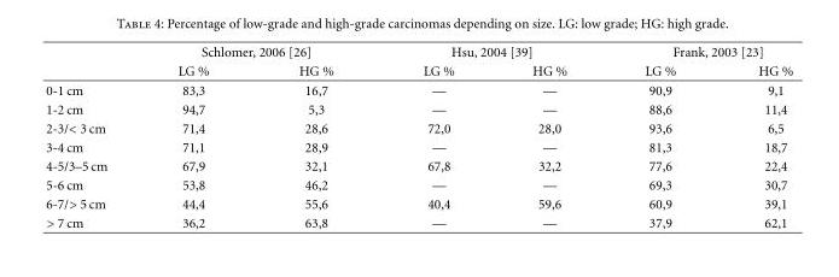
<table><thead><tr><td rowspan="2"></td><td colspan="2">Schlomer, 2006 [26]</td><td colspan="2">Hsu, 2004 [39]</td><td colspan="2">Frank, 2003 [23]</td></tr><tr><td>LG %</td><td>HG %</td><td>LG %</td><td>HG %</td><td>LG %</td><td>HG %</td></tr></thead><tbody><tr><td>0-1 cm</td><td>83,3</td><td>16,7</td><td>—</td><td>—</td><td>90,9</td><td>9,1</td></tr><tr><td>1-2 cm</td><td>94,7</td><td>5,3</td><td>—</td><td>—</td><td>88,6</td><td>11,4</td></tr><tr><td>2-3/&lt; 3 cm</td><td>71,4</td><td>28,6</td><td>72,0</td><td>28,0</td><td>93,6</td><td>6,5</td></tr><tr><td>3-4 cm</td><td>71,1</td><td>28,9</td><td>—</td><td>—</td><td>81,3</td><td>18,7</td></tr><tr><td>4-5/3–5 cm</td><td>67,9</td><td>32,1</td><td>67,8</td><td>32,2</td><td>77,6</td><td>22,4</td></tr><tr><td>5-6 cm</td><td>53,8</td><td>46,2</td><td>—</td><td>—</td><td>69,3</td><td>30,7</td></tr><tr><td>6-7/&gt; 5 cm</td><td>44,4</td><td>55,6</td><td>40,4</td><td>59,6</td><td>60,9</td><td>39,1</td></tr><tr><td>&gt; 7 cm</td><td>36,2</td><td>63,8</td><td>—</td><td>—</td><td>37,9</td><td>62,1</td></tr></tbody></table>